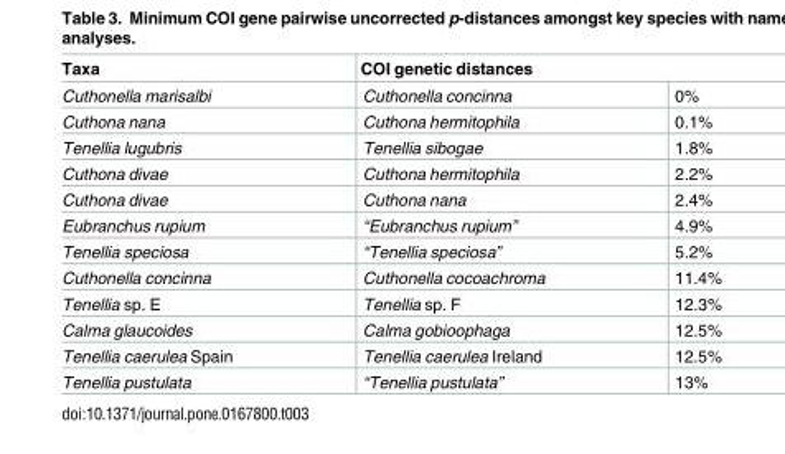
<table><thead><tr><td rowspan="2">Taxa Cuthonella marisalbi</td><td colspan="2">COI genetic distances</td></tr><tr><td>Cuthonella concinna</td><td>0%</td></tr></thead><tbody><tr><td>Cuthona nana</td><td>Cuthona hermitophila</td><td>0.1%</td></tr><tr><td>Tenellia lugubris</td><td>Tenellia sibogae</td><td>1.8%</td></tr><tr><td>Cuthona divae</td><td>Cuthona hermitophila</td><td>2.2%</td></tr><tr><td>Cuthona divae</td><td>Cuthona nana</td><td>2.4%</td></tr><tr><td>Eubranchus rupium</td><td>“Eubranchus rupium”</td><td>4.9%</td></tr><tr><td>Tenellia speciosa</td><td>“Tenellia speciosa”</td><td>5.2%</td></tr><tr><td>Cuthonella concinna</td><td>Cuthonella cocoachroma</td><td>11.4%</td></tr><tr><td>Tenellia sp. E</td><td>Tenellia sp. F</td><td>12.3%</td></tr><tr><td>Calma glaucoides</td><td>Calma gobioophaga</td><td>12.5%</td></tr><tr><td>Tenellia caerulea Spain</td><td>Tenellia caerulea Ireland</td><td>12.5%</td></tr><tr><td>Tenellia pustulata</td><td>“Tenellia pustulata”</td><td>13%</td></tr></tbody></table>